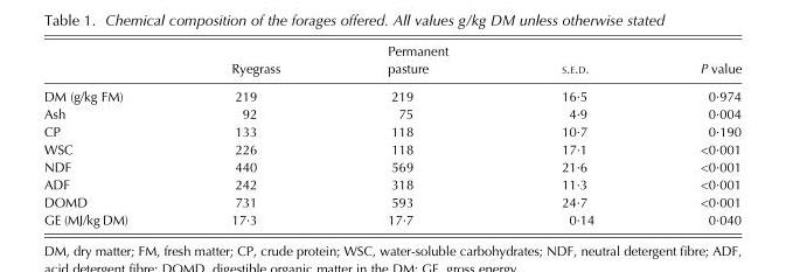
<table><thead><tr><td></td><td>Ryegrass</td><td>Permanent pasture</td><td>S.E.D.</td><td>P value</td></tr></thead><tbody><tr><td>DM (g/kg FM)</td><td>219</td><td>219</td><td>16·5</td><td>0·974</td></tr><tr><td>Ash</td><td>92</td><td>75</td><td>4·9</td><td>0·004</td></tr><tr><td>CP</td><td>133</td><td>118</td><td>10·7</td><td>0·190</td></tr><tr><td>WSC</td><td>226</td><td>118</td><td>17·1</td><td>&lt;0·001</td></tr><tr><td>NDF</td><td>440</td><td>569</td><td>21·6</td><td>&lt;0·001</td></tr><tr><td>ADF</td><td>242</td><td>318</td><td>11·3</td><td>&lt;0·001</td></tr><tr><td>DOMD</td><td>731</td><td>593</td><td>24·7</td><td>&lt;0·001</td></tr><tr><td>GE (MJ/kg DM)</td><td>17·3</td><td>17·7</td><td>0·14</td><td>0·040</td></tr></tbody></table>